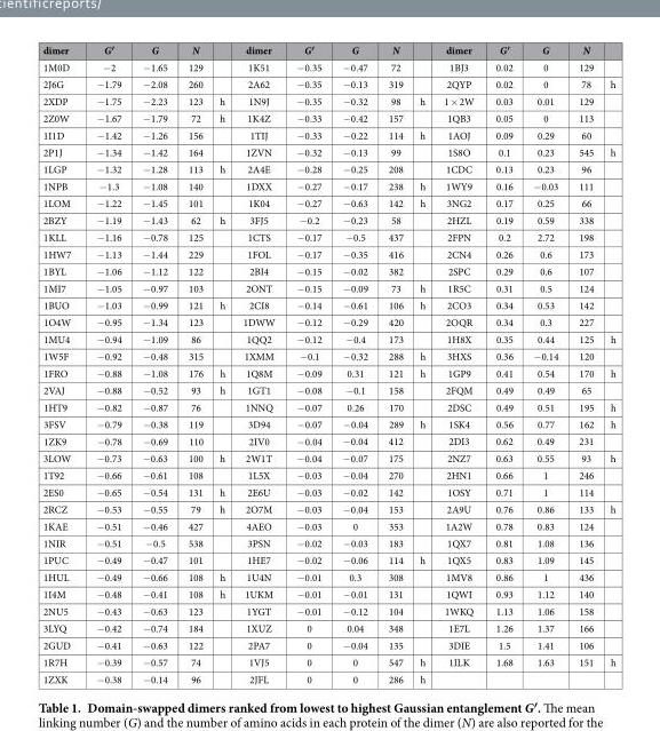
<table><thead><tr><td>dimer</td><td>G′</td><td>G</td><td>N</td><td></td><td>dimer</td><td>G′</td><td>G</td><td>N</td><td></td><td>dimer</td><td>G′</td><td>G</td><td>N</td><td></td></tr></thead><tbody><tr><td>1M0D</td><td>− 2</td><td>− 1.65</td><td>129</td><td></td><td>1K51</td><td>− 0.35</td><td>− 0.47</td><td>72</td><td></td><td>1BJ3</td><td>0.02</td><td>0</td><td>129</td><td></td></tr><tr><td>2J6G</td><td>− 1.79</td><td>− 2.08</td><td>260</td><td></td><td>2A62</td><td>− 0.35</td><td>− 0.13</td><td>319</td><td></td><td>2QYP</td><td>0.02</td><td>0</td><td>78</td><td>h</td></tr><tr><td>2XDP</td><td>− 1.75</td><td>− 2.23</td><td>123</td><td>h</td><td>1N9J</td><td>− 0.35</td><td>− 0.32</td><td>98</td><td>h</td><td>1 × 2W</td><td>0.03</td><td>0.01</td><td>129</td><td></td></tr><tr><td>2Z0W</td><td>− 1.67</td><td>− 1.79</td><td>72</td><td>h</td><td>1K4Z</td><td>− 0.33</td><td>− 0.42</td><td>157</td><td></td><td>1QB3</td><td>0.05</td><td>0</td><td>113</td><td></td></tr><tr><td>1I1D</td><td>− 1.42</td><td>− 1.26</td><td>156</td><td></td><td>1TIJ</td><td>− 0.33</td><td>− 0.22</td><td>114</td><td>h</td><td>1AOJ</td><td>0.09</td><td>0.29</td><td>60</td><td></td></tr><tr><td>2P1J</td><td>− 1.34</td><td>− 1.42</td><td>164</td><td></td><td>1ZVN</td><td>− 0.32</td><td>− 0.13</td><td>99</td><td></td><td>1S8O</td><td>0.1</td><td>0.23</td><td>545</td><td>h</td></tr><tr><td>1LGP</td><td>− 1.32</td><td>− 1.28</td><td>113</td><td>h</td><td>2A4E</td><td>− 0.28</td><td>− 0.25</td><td>208</td><td></td><td>1CDC</td><td>0.13</td><td>0.23</td><td>96</td><td></td></tr><tr><td>1NPB</td><td>− 1.3</td><td>− 1.08</td><td>140</td><td></td><td>1DXX</td><td>− 0.27</td><td>− 0.17</td><td>238</td><td>h</td><td>1WY9</td><td>0.16</td><td>− 0.03</td><td>111</td><td></td></tr><tr><td>1LOM</td><td>− 1.22</td><td>− 1.45</td><td>101</td><td></td><td>1K04</td><td>− 0.27</td><td>− 0.63</td><td>142</td><td>h</td><td>3NG2</td><td>0.17</td><td>0.25</td><td>66</td><td></td></tr><tr><td>2BZY</td><td>− 1.19</td><td>− 1.43</td><td>62</td><td>h</td><td>3FJ5</td><td>− 0.2</td><td>− 0.23</td><td>58</td><td></td><td>2HZL</td><td>0.19</td><td>0.59</td><td>338</td><td></td></tr><tr><td>1KLL</td><td>− 1.16</td><td>− 0.78</td><td>125</td><td></td><td>1CTS</td><td>− 0.17</td><td>− 0.5</td><td>437</td><td></td><td>2FPN</td><td>0.2</td><td>2.72</td><td>198</td><td></td></tr><tr><td>1HW7</td><td>− 1.13</td><td>− 1.44</td><td>229</td><td></td><td>1FOL</td><td>− 0.17</td><td>− 0.35</td><td>416</td><td></td><td>2CN4</td><td>0.26</td><td>0.6</td><td>173</td><td></td></tr><tr><td>1BYL</td><td>− 1.06</td><td>− 1.12</td><td>122</td><td></td><td>2BI4</td><td>− 0.15</td><td>− 0.02</td><td>382</td><td></td><td>2SPC</td><td>0.29</td><td>0.6</td><td>107</td><td></td></tr><tr><td>1MI7</td><td>− 1.05</td><td>− 0.97</td><td>103</td><td></td><td>2ONT</td><td>− 0.15</td><td>− 0.09</td><td>73</td><td>h</td><td>1R5C</td><td>0.31</td><td>0.5</td><td>124</td><td></td></tr><tr><td>1BUO</td><td>− 1.03</td><td>− 0.99</td><td>121</td><td>h</td><td>2CI8</td><td>− 0.14</td><td>− 0.61</td><td>106</td><td>h</td><td>2CO3</td><td>0.34</td><td>0.53</td><td>142</td><td></td></tr><tr><td>1O4W</td><td>− 0.95</td><td>− 1.34</td><td>123</td><td></td><td>1DWW</td><td>− 0.12</td><td>− 0.29</td><td>420</td><td></td><td>2OQR</td><td>0.34</td><td>0.3</td><td>227</td><td></td></tr><tr><td>1MU4</td><td>− 0.94</td><td>− 1.09</td><td>86</td><td></td><td>1QQ2</td><td>− 0.12</td><td>− 0.4</td><td>173</td><td></td><td>1H8X</td><td>0.35</td><td>0.44</td><td>125</td><td>h</td></tr><tr><td>1W5F</td><td>− 0.92</td><td>− 0.48</td><td>315</td><td></td><td>1XMM</td><td>− 0.1</td><td>− 0.32</td><td>288</td><td>h</td><td>3HXS</td><td>0.36</td><td>− 0.14</td><td>120</td><td></td></tr><tr><td>1FRO</td><td>− 0.88</td><td>− 1.08</td><td>176</td><td>h</td><td>1Q8M</td><td>− 0.09</td><td>0.31</td><td>121</td><td>h</td><td>1GP9</td><td>0.41</td><td>0.54</td><td>170</td><td>h</td></tr><tr><td>2VAJ</td><td>− 0.88</td><td>− 0.52</td><td>93</td><td>h</td><td>1GT1</td><td>− 0.08</td><td>− 0.1</td><td>158</td><td></td><td>2FQM</td><td>0.49</td><td>0.49</td><td>65</td><td></td></tr><tr><td>1HT9</td><td>− 0.82</td><td>− 0.87</td><td>76</td><td></td><td>1NNQ</td><td>− 0.07</td><td>0.26</td><td>170</td><td></td><td>2DSC</td><td>0.49</td><td>0.51</td><td>195</td><td>h</td></tr><tr><td>3FSV</td><td>− 0.79</td><td>− 0.38</td><td>119</td><td></td><td>3D94</td><td>− 0.07</td><td>− 0.04</td><td>289</td><td>h</td><td>1SK4</td><td>0.56</td><td>0.77</td><td>162</td><td>h</td></tr><tr><td>1ZK9</td><td>− 0.78</td><td>− 0.69</td><td>110</td><td></td><td>2IV0</td><td>− 0.04</td><td>− 0.04</td><td>412</td><td></td><td>2DI3</td><td>0.62</td><td>0.49</td><td>231</td><td></td></tr><tr><td>3LOW</td><td>− 0.73</td><td>− 0.63</td><td>100</td><td>h</td><td>2W1T</td><td>− 0.04</td><td>− 0.07</td><td>175</td><td></td><td>2NZ7</td><td>0.63</td><td>0.55</td><td>93</td><td>h</td></tr><tr><td>1T92</td><td>− 0.66</td><td>− 0.61</td><td>108</td><td></td><td>1L5X</td><td>− 0.03</td><td>− 0.04</td><td>270</td><td></td><td>2HN1</td><td>0.66</td><td>1</td><td>246</td><td></td></tr><tr><td>2ES0</td><td>− 0.65</td><td>− 0.54</td><td>131</td><td>h</td><td>2E6U</td><td>− 0.03</td><td>− 0.02</td><td>142</td><td></td><td>1OSY</td><td>0.71</td><td>1</td><td>114</td><td></td></tr><tr><td>2RCZ</td><td>− 0.53</td><td>− 0.55</td><td>79</td><td>h</td><td>2O7M</td><td>− 0.03</td><td>− 0.04</td><td>153</td><td></td><td>2A9U</td><td>0.76</td><td>0.86</td><td>133</td><td>h</td></tr><tr><td>1KAE</td><td>− 0.51</td><td>− 0.46</td><td>427</td><td></td><td>4AEO</td><td>− 0.03</td><td>0</td><td>353</td><td></td><td>1A2W</td><td>0.78</td><td>0.83</td><td>124</td><td></td></tr><tr><td>1NIR</td><td>− 0.51</td><td>− 0.5</td><td>538</td><td></td><td>3PSN</td><td>− 0.02</td><td>− 0.03</td><td>183</td><td></td><td>1QX7</td><td>0.81</td><td>1.08</td><td>136</td><td></td></tr><tr><td>1PUC</td><td>− 0.49</td><td>− 0.47</td><td>101</td><td></td><td>1HE7</td><td>− 0.02</td><td>− 0.06</td><td>114</td><td>h</td><td>1QX5</td><td>0.83</td><td>1.09</td><td>145</td><td></td></tr><tr><td>1HUL</td><td>− 0.49</td><td>− 0.66</td><td>108</td><td>h</td><td>1U4N</td><td>− 0.01</td><td>0.3</td><td>308</td><td></td><td>1MV8</td><td>0.86</td><td>1</td><td>436</td><td></td></tr><tr><td>1I4M</td><td>− 0.48</td><td>− 0.41</td><td>108</td><td>h</td><td>1UKM</td><td>− 0.01</td><td>− 0.01</td><td>131</td><td></td><td>1QWI</td><td>0.93</td><td>1.12</td><td>140</td><td></td></tr><tr><td>2NU5</td><td>− 0.43</td><td>− 0.63</td><td>123</td><td></td><td>1YGT</td><td>− 0.01</td><td>− 0.12</td><td>104</td><td></td><td>1WKQ</td><td>1.13</td><td>1.06</td><td>158</td><td></td></tr><tr><td>3LYQ</td><td>− 0.42</td><td>− 0.74</td><td>184</td><td></td><td>1XUZ</td><td>0</td><td>0.04</td><td>348</td><td></td><td>1E7L</td><td>1.26</td><td>1.37</td><td>166</td><td></td></tr><tr><td>2GUD</td><td>− 0.41</td><td>− 0.63</td><td>122</td><td></td><td>2PA7</td><td>0</td><td>− 0.04</td><td>135</td><td></td><td>3DIE</td><td>1.5</td><td>1.41</td><td>106</td><td></td></tr><tr><td>1R7H</td><td>− 0.39</td><td>− 0.57</td><td>74</td><td></td><td>1VJ5</td><td>0</td><td>0</td><td>547</td><td>h</td><td>1ILK</td><td>1.68</td><td>1.63</td><td>151</td><td>h</td></tr><tr><td>1ZXK</td><td>− 0.38</td><td>− 0.14</td><td>96</td><td></td><td>2JFL</td><td>0</td><td>0</td><td>286</td><td>h</td><td></td><td></td><td></td><td></td><td></td></tr></tbody></table>